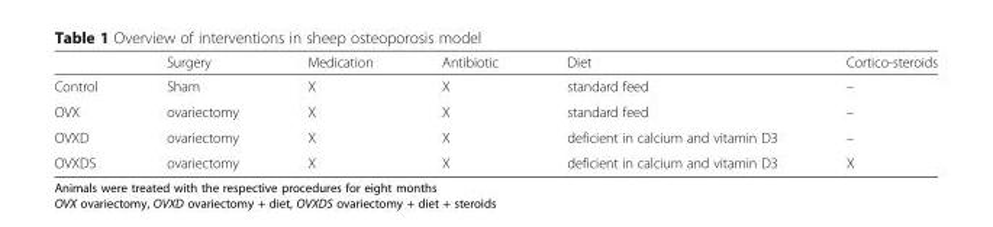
<table><thead><tr><td></td><td>Surgery</td><td>Medication</td><td>Antibiotic</td><td>Diet</td><td>Cortico-steroids</td></tr></thead><tbody><tr><td>Control</td><td>Sham</td><td>X</td><td>X</td><td>standard feed</td><td>–</td></tr><tr><td>OVX</td><td>ovariectomy</td><td>X</td><td>X</td><td>standard feed</td><td>–</td></tr><tr><td>OVXD</td><td>ovariectomy</td><td>X</td><td>X</td><td>deficient in calcium and vitamin D3</td><td>–</td></tr><tr><td>OVXDS</td><td>ovariectomy</td><td>X</td><td>X</td><td>deficient in calcium and vitamin D3</td><td>X</td></tr></tbody></table>